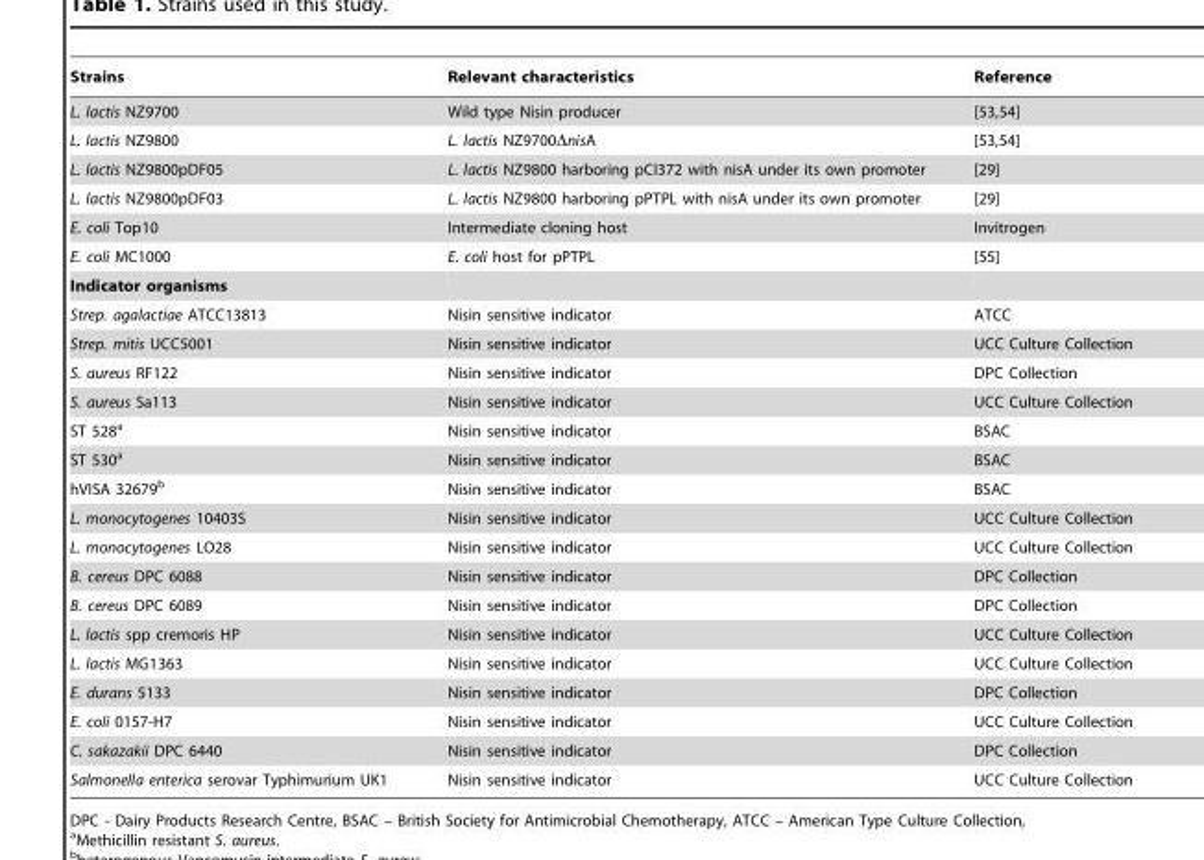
<table><thead><tr><td>Strains</td><td>Relevant characteristics</td><td>Reference</td></tr></thead><tbody><tr><td>L. lactis NZ9700</td><td>Wild type Nisin producer</td><td>[53,54]</td></tr><tr><td>L. lactis NZ9800</td><td>L. lactis NZ9700ΔnisA</td><td>[53,54]</td></tr><tr><td>L. lactis NZ9800pDF05</td><td>L. lactis NZ9800 harboring pCI372 with nisA under its own promoter</td><td>[29]</td></tr><tr><td>L. lactis NZ9800pDF03</td><td>L. lactis NZ9800 harboring pPTPL with nisA under its own promoter</td><td>[29]</td></tr><tr><td>E. coli Top10</td><td>Intermediate cloning host</td><td>Invitrogen</td></tr><tr><td>E. coli MC1000</td><td>E. coli host for pPTPL</td><td>[55]</td></tr><tr><td colspan="3">Indicator organisms</td></tr><tr><td>Strep. agalactiae ATCC13813</td><td>Nisin sensitive indicator</td><td>ATCC</td></tr><tr><td>Strep. mitis UCC5001</td><td>Nisin sensitive indicator</td><td>UCC Culture Collection</td></tr><tr><td>S. aureus RF122</td><td>Nisin sensitive indicator</td><td>DPC Collection</td></tr><tr><td>S. aureus Sa113</td><td>Nisin sensitive indicator</td><td>UCC Culture Collection</td></tr><tr><td>ST 528<sup>a</sup></td><td>Nisin sensitive indicator</td><td>BSAC</td></tr><tr><td>ST 530<sup>a</sup></td><td>Nisin sensitive indicator</td><td>BSAC</td></tr><tr><td>hVISA 32679<sup>b</sup></td><td>Nisin sensitive indicator</td><td>BSAC</td></tr><tr><td>L. monocytogenes 10403S</td><td>Nisin sensitive indicator</td><td>UCC Culture Collection</td></tr><tr><td>L. monocytogenes LO28</td><td>Nisin sensitive indicator</td><td>UCC Culture Collection</td></tr><tr><td>B. cereus DPC 6088</td><td>Nisin sensitive indicator</td><td>DPC Collection</td></tr><tr><td>B. cereus DPC 6089</td><td>Nisin sensitive indicator</td><td>DPC Collection</td></tr><tr><td>L. lactis spp cremoris HP</td><td>Nisin sensitive indicator</td><td>UCC Culture Collection</td></tr><tr><td>L. lactis MG1363</td><td>Nisin sensitive indicator</td><td>UCC Culture Collection</td></tr><tr><td>E. durans 5133</td><td>Nisin sensitive indicator</td><td>DPC Collection</td></tr><tr><td>E. coli 0157-H7</td><td>Nisin sensitive indicator</td><td>UCC Culture Collection</td></tr><tr><td>C. sakazakii DPC 6440</td><td>Nisin sensitive indicator</td><td>DPC Collection</td></tr><tr><td>Salmonella enterica serovar Typhimurium UK1</td><td>Nisin sensitive indicator</td><td>UCC Culture Collection</td></tr></tbody></table>